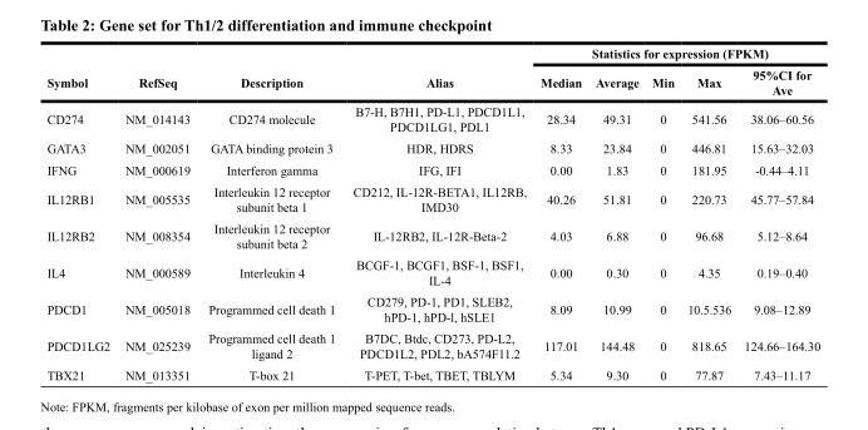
<table><thead><tr><td rowspan="2">Symbol</td><td rowspan="2">RefSeq</td><td rowspan="2">Description</td><td rowspan="2">Alias</td><td colspan="5">Statistics for expression (FPKM)</td></tr><tr><td>Median</td><td>Average</td><td>Min</td><td>Max</td><td>95%CI for Ave</td></tr></thead><tbody><tr><td>CD274</td><td>NM_014143</td><td>CD274 molecule</td><td>B7-H, B7H1, PD-L1, PDCD1L1, PDCD1LG1, PDL1</td><td>28.34</td><td>49.31</td><td>0</td><td>541.56</td><td>38.06–60.56</td></tr><tr><td>GATA3</td><td>NM_002051</td><td>GATA binding protein 3</td><td>HDR, HDRS</td><td>8.33</td><td>23.84</td><td>0</td><td>446.81</td><td>15.63–32.03</td></tr><tr><td>IFNG</td><td>NM_000619</td><td>Interferon gamma</td><td>IFG, IFI</td><td>0.00</td><td>1.83</td><td>0</td><td>181.95</td><td>-0.44–4.11</td></tr><tr><td>IL12RB1</td><td>NM_005535</td><td>Interleukin 12 receptor subunit beta 1</td><td>CD212, IL-12R-BETA1, IL12RB, IMD30</td><td>40.26</td><td>51.81</td><td>0</td><td>220.73</td><td>45.77–57.84</td></tr><tr><td>IL12RB2</td><td>NM_008354</td><td>Interleukin 12 receptor subunit beta 2</td><td>IL-12RB2, IL-12R-Beta-2</td><td>4.03</td><td>6.88</td><td>0</td><td>96.68</td><td>5.12–8.64</td></tr><tr><td>IL4</td><td>NM_000589</td><td>Interleukin 4</td><td>BCGF-1, BCGF1, BSF-1, BSF1, IL-4</td><td>0.00</td><td>0.30</td><td>0</td><td>4.35</td><td>0.19–0.40</td></tr><tr><td>PDCD1</td><td>NM_005018</td><td>Programmed cell death 1</td><td>CD279, PD-1, PD1, SLEB2, hPD-1, hPD-l, hSLE1</td><td>8.09</td><td>10.99</td><td>0</td><td>10.5.536</td><td>9.08–12.89</td></tr><tr><td>PDCD1LG2</td><td>NM_025239</td><td>Programmed cell death 1 ligand 2</td><td>B7DC, Btdc, CD273, PD-L2, PDCD1L2, PDL2, bA574F11.2</td><td>117.01</td><td>144.48</td><td>0</td><td>818.65</td><td>124.66–164.30</td></tr><tr><td>TBX21</td><td>NM_013351</td><td>T-box 21</td><td>T-PET, T-bet, TBET, TBLYM</td><td>5.34</td><td>9.30</td><td>0</td><td>77.87</td><td>7.43–11.17</td></tr></tbody></table>